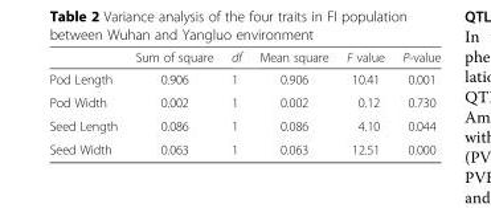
<table><thead><tr><td></td><td>Sum of square</td><td>df</td><td>Mean square</td><td>F value</td><td>P-value</td></tr></thead><tbody><tr><td>Pod Length</td><td>0.906</td><td>1</td><td>0.906</td><td>10.41</td><td>0.001</td></tr><tr><td>Pod Width</td><td>0.002</td><td>1</td><td>0.002</td><td>0.12</td><td>0.730</td></tr><tr><td>Seed Length</td><td>0.086</td><td>1</td><td>0.086</td><td>4.10</td><td>0.044</td></tr><tr><td>Seed Width</td><td>0.063</td><td>1</td><td>0.063</td><td>12.51</td><td>0.000</td></tr></tbody></table>